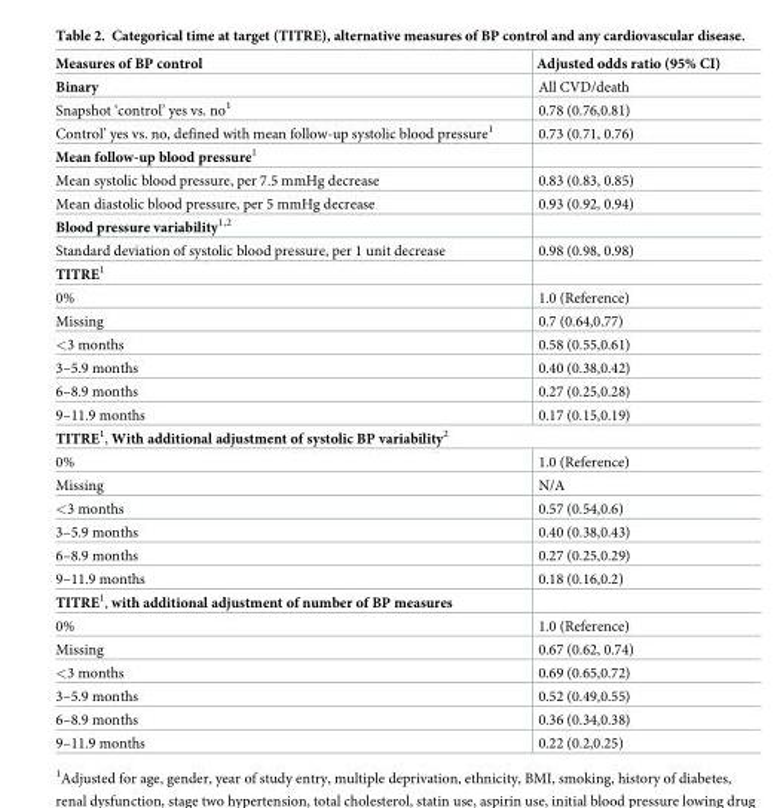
<table><thead><tr><td>Measures of BP control</td><td>Adjusted odds ratio (95% CI)</td></tr></thead><tbody><tr><td>Binary</td><td>All CVD/death</td></tr><tr><td>Snapshot ‘control’ yes vs. no<sup>1</sup></td><td>0.78 (0.76,0.81)</td></tr><tr><td>Control’ yes vs. no, defined with mean follow-up systolic blood pressure<sup>1</sup></td><td>0.73 (0.71, 0.76)</td></tr><tr><td colspan="2">Mean follow-up blood pressure<sup>1</sup></td></tr><tr><td>Mean systolic blood pressure, per 7.5 mmHg decrease</td><td>0.83 (0.83, 0.85)</td></tr><tr><td>Mean diastolic blood pressure, per 5 mmHg decrease</td><td>0.93 (0.92, 0.94)</td></tr><tr><td colspan="2">Blood pressure variability<sup>1,2</sup></td></tr><tr><td>Standard deviation of systolic blood pressure, per 1 unit decrease</td><td>0.98 (0.98, 0.98)</td></tr><tr><td colspan="2">TITRE<sup>1</sup></td></tr><tr><td>0%</td><td>1.0 (Reference)</td></tr><tr><td>Missing</td><td>0.7 (0.64,0.77)</td></tr><tr><td>&lt;3 months</td><td>0.58 (0.55,0.61)</td></tr><tr><td>3–5.9 months</td><td>0.40 (0.38,0.42)</td></tr><tr><td>6–8.9 months</td><td>0.27 (0.25,0.28)</td></tr><tr><td>9–11.9 months</td><td>0.17 (0.15,0.19)</td></tr><tr><td colspan="2">TITRE<sup>1</sup>, With additional adjustment of systolic BP variability<sup>2</sup></td></tr><tr><td>0%</td><td>1.0 (Reference)</td></tr><tr><td>Missing</td><td>N/A</td></tr><tr><td>&lt;3 months</td><td>0.57 (0.54,0.6)</td></tr><tr><td>3–5.9 months</td><td>0.40 (0.38,0.43)</td></tr><tr><td>6–8.9 months</td><td>0.27 (0.25,0.29)</td></tr><tr><td>9–11.9 months</td><td>0.18 (0.16,0.2)</td></tr><tr><td colspan="2">TITRE<sup>1</sup>, with additional adjustment of number of BP measures</td></tr><tr><td>0%</td><td>1.0 (Reference)</td></tr><tr><td>Missing</td><td>0.67 (0.62, 0.74)</td></tr><tr><td>&lt;3 months</td><td>0.69 (0.65,0.72)</td></tr><tr><td>3–5.9 months</td><td>0.52 (0.49,0.55)</td></tr><tr><td>6–8.9 months</td><td>0.36 (0.34,0.38)</td></tr><tr><td>9–11.9 months</td><td>0.22 (0.2,0.25)</td></tr></tbody></table>